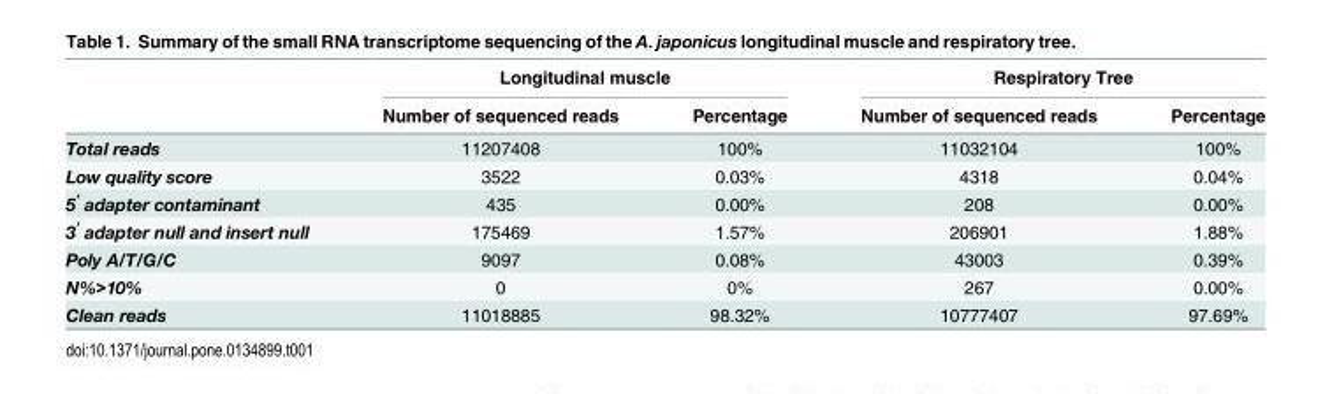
<table><thead><tr><td rowspan="2"></td><td colspan="2">Longitudinal muscle</td><td colspan="2">Respiratory Tree</td></tr><tr><td>Number of sequenced reads</td><td>Percentage</td><td>Number of sequenced reads</td><td>Percentage</td></tr></thead><tbody><tr><td>Total reads</td><td>11207408</td><td>100%</td><td>11032104</td><td>100%</td></tr><tr><td>Low quality score</td><td>3522</td><td>0.03%</td><td>4318</td><td>0.04%</td></tr><tr><td>5<sup>’</sup> adapter contaminant</td><td>435</td><td>0.00%</td><td>208</td><td>0.00%</td></tr><tr><td>3<sup>’</sup> adapter null and insert null</td><td>175469</td><td>1.57%</td><td>206901</td><td>1.88%</td></tr><tr><td>Poly A/T/G/C</td><td>9097</td><td>0.08%</td><td>43003</td><td>0.39%</td></tr><tr><td>N%&gt;10%</td><td>0</td><td>0%</td><td>267</td><td>0.00%</td></tr><tr><td>Clean reads</td><td>11018885</td><td>98.32%</td><td>10777407</td><td>97.69%</td></tr></tbody></table>